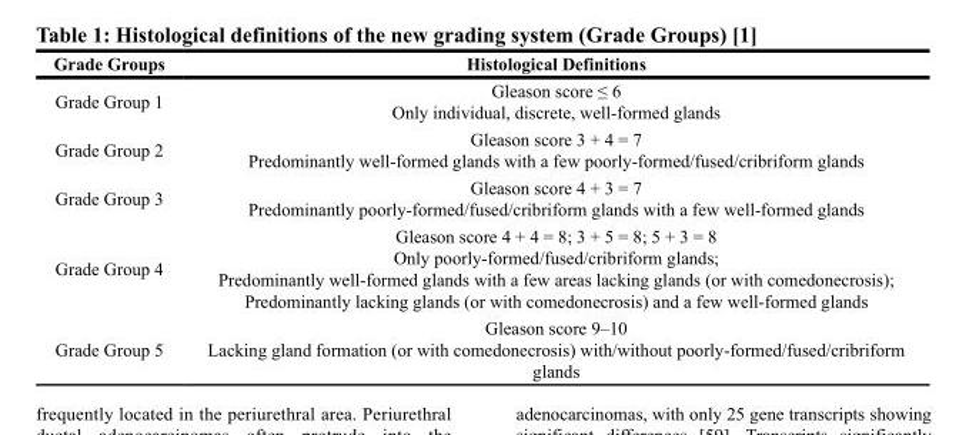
<table><thead><tr><td>Grade Groups</td><td>Histological Definitions</td></tr></thead><tbody><tr><td>Grade Group 1</td><td>Gleason score ≤ 6 Only individual, discrete, well-formed glands</td></tr><tr><td>Grade Group 2</td><td>Gleason score 3 + 4 = 7 Predominantly well-formed glands with a few poorly-formed/fused/cribriform glands</td></tr><tr><td>Grade Group 3</td><td>Gleason score 4 + 3 = 7 Predominantly poorly-formed/fused/cribriform glands with a few well-formed glands</td></tr><tr><td>Grade Group 4</td><td>Gleason score 4 + 4 = 8; 3 + 5 = 8; 5 + 3 = 8 Only poorly-formed/fused/cribriform glands; Predominantly well-formed glands with a few areas lacking glands (or with comedonecrosis); Predominantly lacking glands (or with comedonecrosis) and a few well-formed glands</td></tr><tr><td>Grade Group 5</td><td>Gleason score 9‒10 Lacking gland formation (or with comedonecrosis) with/without poorly-formed/fused/cribriform glands</td></tr></tbody></table>